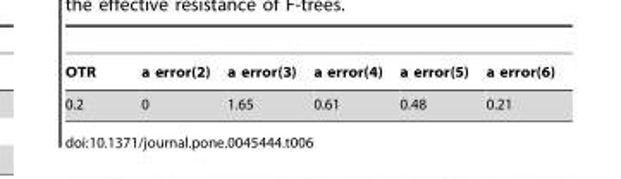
<table><thead><tr><td>OTR</td><td>a error(2)</td><td>a error(3)</td><td>a error(4)</td><td>a error(5)</td><td>a error(6)</td></tr></thead><tbody><tr><td>0.2</td><td>0</td><td>1.65</td><td>0.61</td><td>0.48</td><td>0.21</td></tr></tbody></table>